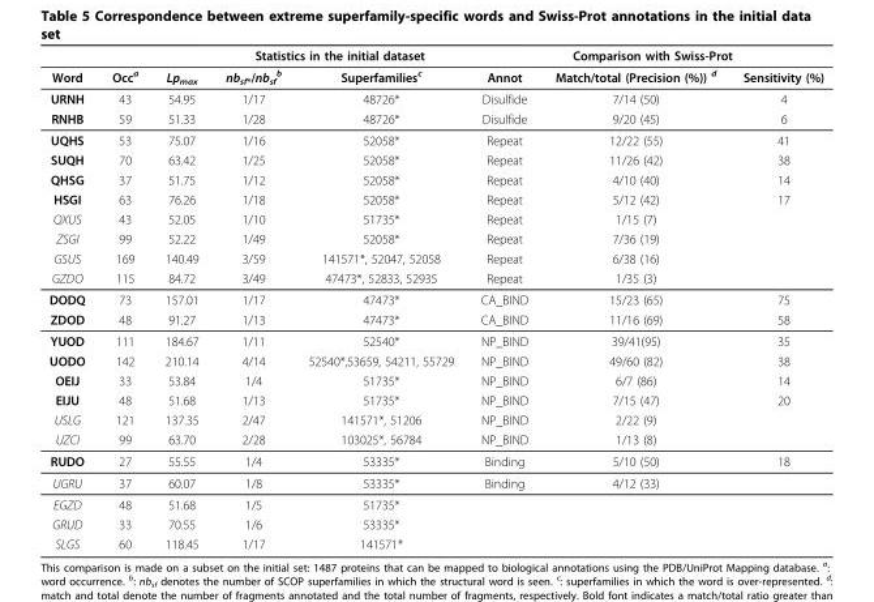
<table><thead><tr><td rowspan="2">Word</td><td rowspan="2">Occ<sup>a</sup></td><td rowspan="2">Lp<sub>max</sub></td><td colspan="2">Statistics in the initial dataset</td><td colspan="3">Comparison with Swiss-Prot</td></tr><tr><td>nb<sub>sf*</sub>/nb<sub>sf</sub> <sup>b</sup></td><td>Superfamilies<sup>c</sup></td><td>Annot</td><td>Match/total (Precision (%)) <sup>d</sup></td><td>Sensitivity (%)</td></tr></thead><tbody><tr><td>URNH</td><td>43</td><td>54.95</td><td>1/17</td><td>48726*</td><td>Disulfide</td><td>7/14 (50)</td><td>4</td></tr><tr><td>RNHB</td><td>59</td><td>51.33</td><td>1/28</td><td>48726*</td><td>Disulfide</td><td>9/20 (45)</td><td>6</td></tr><tr><td>UQHS</td><td>53</td><td>75.07</td><td>1/16</td><td>52058*</td><td>Repeat</td><td>12/22 (55)</td><td>41</td></tr><tr><td>SUQH</td><td>70</td><td>63.42</td><td>1/25</td><td>52058*</td><td>Repeat</td><td>11/26 (42)</td><td>38</td></tr><tr><td>QHSG</td><td>37</td><td>51.75</td><td>1/12</td><td>52058*</td><td>Repeat</td><td>4/10 (40)</td><td>14</td></tr><tr><td>HSGI</td><td>63</td><td>76.26</td><td>1/18</td><td>52058*</td><td>Repeat</td><td>5/12 (42)</td><td>17</td></tr><tr><td>QXUS</td><td>43</td><td>52.05</td><td>1/10</td><td>51735*</td><td>Repeat</td><td>1/15 (7)</td><td></td></tr><tr><td>ZSGI</td><td>99</td><td>52.22</td><td>1/49</td><td>52058*</td><td>Repeat</td><td>7/36 (19)</td><td></td></tr><tr><td>GSUS</td><td>169</td><td>140.49</td><td>3/59</td><td>141571*, 52047, 52058</td><td>Repeat</td><td>6/38 (16)</td><td></td></tr><tr><td>GZDO</td><td>115</td><td>84.72</td><td>3/49</td><td>47473*, 52833, 52935</td><td>Repeat</td><td>1/35 (3)</td><td></td></tr><tr><td>DODQ</td><td>73</td><td>157.01</td><td>1/17</td><td>47473*</td><td>CA_BIND</td><td>15/23 (65)</td><td>75</td></tr><tr><td>ZDOD</td><td>48</td><td>91.27</td><td>1/13</td><td>47473*</td><td>CA_BIND</td><td>11/16 (69)</td><td>58</td></tr><tr><td>YUOD</td><td>111</td><td>184.67</td><td>1/11</td><td>52540*</td><td>NP_BIND</td><td>39/41(95)</td><td>35</td></tr><tr><td>UODO</td><td>142</td><td>210.14</td><td>4/14</td><td>52540*,53659, 54211, 55729</td><td>NP_BIND</td><td>49/60 (82)</td><td>38</td></tr><tr><td>OEIJ</td><td>33</td><td>53.84</td><td>1/4</td><td>51735*</td><td>NP_BIND</td><td>6/7 (86)</td><td>14</td></tr><tr><td>EIJU</td><td>48</td><td>51.68</td><td>1/13</td><td>51735*</td><td>NP_BIND</td><td>7/15 (47)</td><td>20</td></tr><tr><td>USLG</td><td>121</td><td>137.35</td><td>2/47</td><td>141571*, 51206</td><td>NP_BIND</td><td>2/22 (9)</td><td></td></tr><tr><td>UZCI</td><td>99</td><td>63.70</td><td>2/28</td><td>103025*, 56784</td><td>NP_BIND</td><td>1/13 (8)</td><td></td></tr><tr><td>RUDO</td><td>27</td><td>55.55</td><td>1/4</td><td>53335*</td><td>Binding</td><td>5/10 (50)</td><td>18</td></tr><tr><td>UGRU</td><td>37</td><td>60.07</td><td>1/8</td><td>53335*</td><td>Binding</td><td>4/12 (33)</td><td></td></tr><tr><td>EGZD</td><td>48</td><td>51.68</td><td>1/5</td><td>51735*</td><td></td><td></td><td></td></tr><tr><td>GRUD</td><td>33</td><td>70.55</td><td>1/6</td><td>53335*</td><td></td><td></td><td></td></tr><tr><td>SLGS</td><td>60</td><td>118.45</td><td>1/17</td><td>141571*</td><td></td><td></td><td></td></tr></tbody></table>